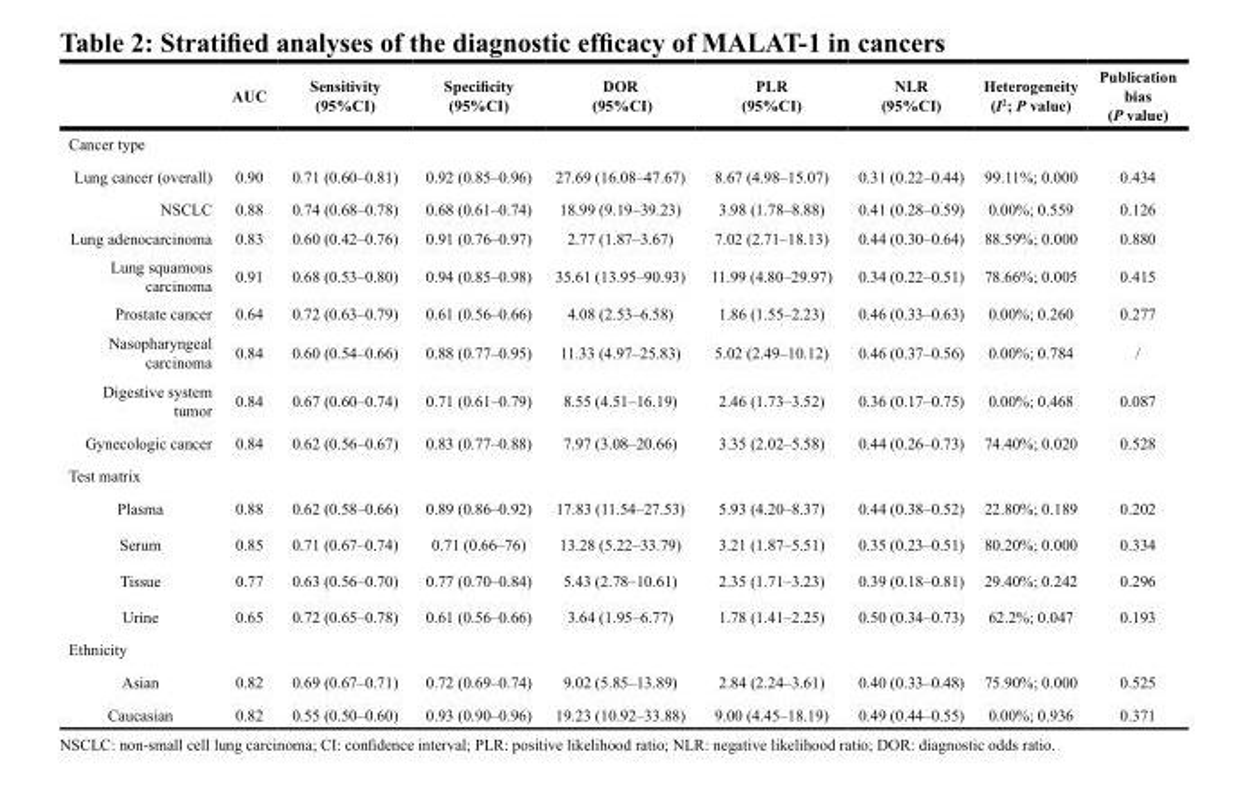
<table><thead><tr><td></td><td>AUC</td><td>Sensitivity (95%CI)</td><td>Specificity (95%CI)</td><td>DOR (95%CI)</td><td>PLR (95%CI)</td><td>NLR (95%CI)</td><td>Heterogeneity (I<sup>2</sup>; P value)</td><td>Publication bias (P value)</td></tr></thead><tbody><tr><td colspan="9">Cancer type</td></tr><tr><td>Lung cancer (overall)</td><td>0.90</td><td>0.71 (0.60–0.81)</td><td>0.92 (0.85–0.96)</td><td>27.69 (16.08–47.67)</td><td>8.67 (4.98–15.07)</td><td>0.31 (0.22–0.44)</td><td>99.11%; 0.000</td><td>0.434</td></tr><tr><td>NSCLC</td><td>0.88</td><td>0.74 (0.68–0.78)</td><td>0.68 (0.61–0.74)</td><td>18.99 (9.19–39.23)</td><td>3.98 (1.78–8.88)</td><td>0.41 (0.28–0.59)</td><td>0.00%; 0.559</td><td>0.126</td></tr><tr><td>Lung adenocarcinoma</td><td>0.83</td><td>0.60 (0.42–0.76)</td><td>0.91 (0.76–0.97)</td><td>2.77 (1.87–3.67)</td><td>7.02 (2.71–18.13)</td><td>0.44 (0.30–0.64)</td><td>88.59%; 0.000</td><td>0.880</td></tr><tr><td>Lung squamous carcinoma</td><td>0.91</td><td>0.68 (0.53–0.80)</td><td>0.94 (0.85–0.98)</td><td>35.61 (13.95–90.93)</td><td>11.99 (4.80–29.97)</td><td>0.34 (0.22–0.51)</td><td>78.66%; 0.005</td><td>0.415</td></tr><tr><td>Prostate cancer</td><td>0.64</td><td>0.72 (0.63–0.79)</td><td>0.61 (0.56–0.66)</td><td>4.08 (2.53–6.58)</td><td>1.86 (1.55–2.23)</td><td>0.46 (0.33–0.63)</td><td>0.00%; 0.260</td><td>0.277</td></tr><tr><td>Nasopharyngeal carcinoma</td><td>0.84</td><td>0.60 (0.54–0.66)</td><td>0.88 (0.77–0.95)</td><td>11.33 (4.97–25.83)</td><td>5.02 (2.49–10.12)</td><td>0.46 (0.37–0.56)</td><td>0.00%; 0.784</td><td>/</td></tr><tr><td>Digestive system tumor</td><td>0.84</td><td>0.67 (0.60–0.74)</td><td>0.71 (0.61–0.79)</td><td>8.55 (4.51–16.19)</td><td>2.46 (1.73–3.52)</td><td>0.36 (0.17–0.75)</td><td>0.00%; 0.468</td><td>0.087</td></tr><tr><td>Gynecologic cancer</td><td>0.84</td><td>0.62 (0.56–0.67)</td><td>0.83 (0.77–0.88)</td><td>7.97 (3.08–20.66)</td><td>3.35 (2.02–5.58)</td><td>0.44 (0.26–0.73)</td><td>74.40%; 0.020</td><td>0.528</td></tr><tr><td colspan="9">Test matrix</td></tr><tr><td>Plasma</td><td>0.88</td><td>0.62 (0.58–0.66)</td><td>0.89 (0.86–0.92)</td><td>17.83 (11.54–27.53)</td><td>5.93 (4.20–8.37)</td><td>0.44 (0.38–0.52)</td><td>22.80%; 0.189</td><td>0.202</td></tr><tr><td>Serum</td><td>0.85</td><td>0.71 (0.67–0.74)</td><td>0.71 (0.66–76)</td><td>13.28 (5.22–33.79)</td><td>3.21 (1.87–5.51)</td><td>0.35 (0.23–0.51)</td><td>80.20%; 0.000</td><td>0.334</td></tr><tr><td>Tissue</td><td>0.77</td><td>0.63 (0.56–0.70)</td><td>0.77 (0.70–0.84)</td><td>5.43 (2.78–10.61)</td><td>2.35 (1.71–3.23)</td><td>0.39 (0.18–0.81)</td><td>29.40%; 0.242</td><td>0.296</td></tr><tr><td>Urine</td><td>0.65</td><td>0.72 (0.65–0.78)</td><td>0.61 (0.56–0.66)</td><td>3.64 (1.95–6.77)</td><td>1.78 (1.41–2.25)</td><td>0.50 (0.34–0.73)</td><td>62.2%; 0.047</td><td>0.193</td></tr><tr><td colspan="9">Ethnicity</td></tr><tr><td>Asian</td><td>0.82</td><td>0.69 (0.67–0.71)</td><td>0.72 (0.69–0.74)</td><td>9.02 (5.85–13.89)</td><td>2.84 (2.24–3.61)</td><td>0.40 (0.33–0.48)</td><td>75.90%; 0.000</td><td>0.525</td></tr><tr><td>Caucasian</td><td>0.82</td><td>0.55 (0.50–0.60)</td><td>0.93 (0.90–0.96)</td><td>19.23 (10.92–33.88)</td><td>9.00 (4.45–18.19)</td><td>0.49 (0.44–0.55)</td><td>0.00%; 0.936</td><td>0.371</td></tr></tbody></table>